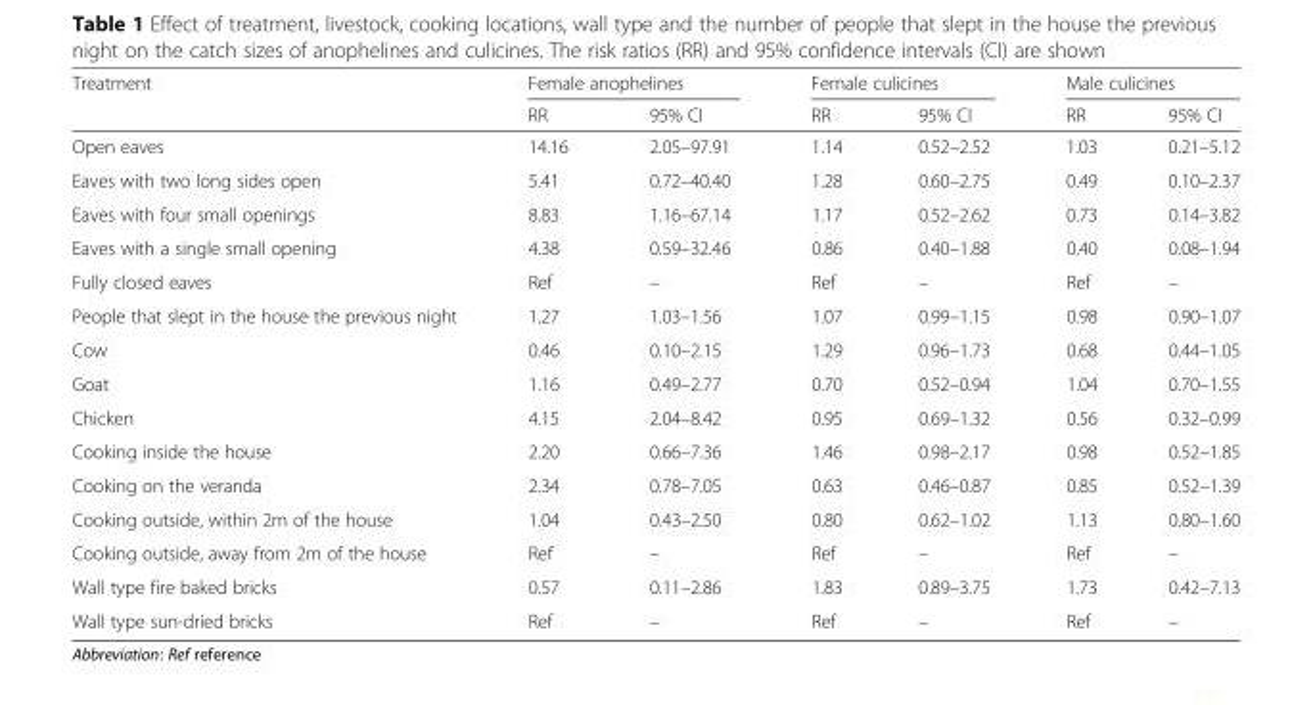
<table><thead><tr><td rowspan="2">Treatment</td><td colspan="2">Female anophelines</td><td colspan="2">Female culicines</td><td colspan="2">Male culicines</td></tr><tr><td>RR</td><td>95% CI</td><td>RR</td><td>95% CI</td><td>RR</td><td>95% CI</td></tr></thead><tbody><tr><td>Open eaves</td><td>14.16</td><td>2.05–97.91</td><td>1.14</td><td>0.52–2.52</td><td>1.03</td><td>0.21–5.12</td></tr><tr><td>Eaves with two long sides open</td><td>5.41</td><td>0.72–40.40</td><td>1.28</td><td>0.60–2.75</td><td>0.49</td><td>0.10–2.37</td></tr><tr><td>Eaves with four small openings</td><td>8.83</td><td>1.16–67.14</td><td>1.17</td><td>0.52–2.62</td><td>0.73</td><td>0.14–3.82</td></tr><tr><td>Eaves with a single small opening</td><td>4.38</td><td>0.59–32.46</td><td>0.86</td><td>0.40–1.88</td><td>0.40</td><td>0.08–1.94</td></tr><tr><td>Fully closed eaves</td><td>Ref</td><td>–</td><td>Ref</td><td>–</td><td>Ref</td><td>–</td></tr><tr><td>People that slept in the house the previous night</td><td>1.27</td><td>1.03–1.56</td><td>1.07</td><td>0.99–1.15</td><td>0.98</td><td>0.90–1.07</td></tr><tr><td>Cow</td><td>0.46</td><td>0.10–2.15</td><td>1.29</td><td>0.96–1.73</td><td>0.68</td><td>0.44–1.05</td></tr><tr><td>Goat</td><td>1.16</td><td>0.49–2.77</td><td>0.70</td><td>0.52–0.94</td><td>1.04</td><td>0.70–1.55</td></tr><tr><td>Chicken</td><td>4.15</td><td>2.04–8.42</td><td>0.95</td><td>0.69–1.32</td><td>0.56</td><td>0.32–0.99</td></tr><tr><td>Cooking inside the house</td><td>2.20</td><td>0.66–7.36</td><td>1.46</td><td>0.98–2.17</td><td>0.98</td><td>0.52–1.85</td></tr><tr><td>Cooking on the veranda</td><td>2.34</td><td>0.78–7.05</td><td>0.63</td><td>0.46–0.87</td><td>0.85</td><td>0.52–1.39</td></tr><tr><td>Cooking outside, within 2m of the house</td><td>1.04</td><td>0.43–2.50</td><td>0.80</td><td>0.62–1.02</td><td>1.13</td><td>0.80–1.60</td></tr><tr><td>Cooking outside, away from 2m of the house</td><td>Ref</td><td>–</td><td>Ref</td><td>–</td><td>Ref</td><td>–</td></tr><tr><td>Wall type fire baked bricks</td><td>0.57</td><td>0.11–2.86</td><td>1.83</td><td>0.89–3.75</td><td>1.73</td><td>0.42–7.13</td></tr><tr><td>Wall type sun-dried bricks</td><td>Ref</td><td>–</td><td>Ref</td><td>–</td><td>Ref</td><td>–</td></tr></tbody></table>